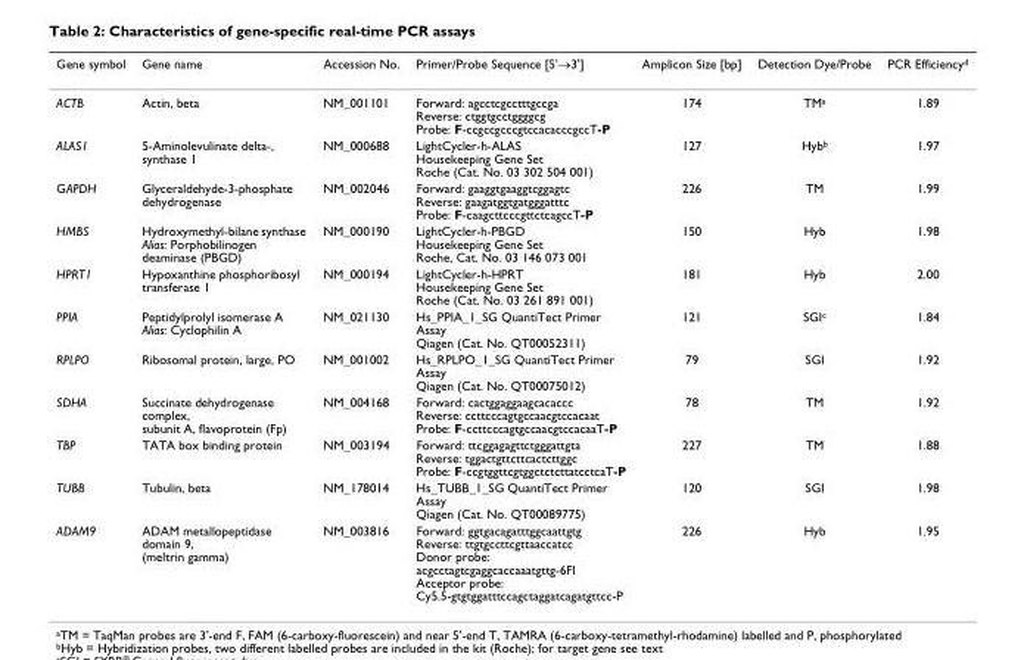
<table><thead><tr><td>Gene symbol</td><td>Gene name</td><td>Accession No.</td><td>Primer/Probe Sequence [5&#x27;→3&#x27;]</td><td>Amplicon Size [bp]</td><td>Detection Dye/Probe</td><td>PCR Efficiency<sup>d</sup></td></tr></thead><tbody><tr><td>ACTB</td><td>Actin, beta</td><td>NM_001101</td><td>Forward: agcctcgcctttgccga Reverse: ctggtgcctggggcg Probe: F-ccgccgcccgtccacacccgccT-P</td><td>174</td><td>TM<sup>a</sup></td><td>1.89</td></tr><tr><td>ALAS1</td><td>5-Aminolevulinate delta-, synthase 1</td><td>NM_000688</td><td>LightCycler-h-ALAS Housekeeping Gene Set Roche (Cat. No. 03 302 504 001)</td><td>127</td><td>Hyb<sup>b</sup></td><td>1.97</td></tr><tr><td>GAPDH</td><td>Glyceraldehyde-3-phosphate dehydrogenase</td><td>NM_002046</td><td>Forward: gaaggtgaaggtcggagtc Reverse: gaagatggtgatgggatttc Probe: F-caagcttcccgttctcagccT-P</td><td>226</td><td>TM</td><td>1.99</td></tr><tr><td>HMBS</td><td>Hydroxymethyl-bilane synthase Alias: Porphobilinogen deaminase (PBGD)</td><td>NM_000190</td><td>LightCycler-h-PBGD Housekeeping Gene Set Roche, Cat. No. 03 146 073 001</td><td>150</td><td>Hyb</td><td>1.98</td></tr><tr><td>HPRT1</td><td>Hypoxanthine phosphoribosyl transferase 1</td><td>NM_000194</td><td>LightCycler-h-HPRT Housekeeping Gene Set Roche (Cat. No. 03 261 891 001)</td><td>181</td><td>Hyb</td><td>2.00</td></tr><tr><td>PPIA</td><td>Peptidylprolyl isomerase A Alias: Cyclophilin A</td><td>NM_021130</td><td>Hs_PPIA_1_SG QuantiTect Primer Assay Qiagen (Cat. No. QT00052311)</td><td>121</td><td>SGI<sup>c</sup></td><td>1.84</td></tr><tr><td>RPLPO</td><td>Ribosomal protein, large, PO</td><td>NM_001002</td><td>Hs_RPLPO_1_SG QuantiTect Primer Assay Qiagen (Cat. No. QT00075012)</td><td>79</td><td>SGI</td><td>1.92</td></tr><tr><td>SDHA</td><td>Succinate dehydrogenase complex, subunit A, flavoprotein (Fp)</td><td>NM_004168</td><td>Forward: cactggaggaagcacaccc Reverse: ccttcccagtgccaacgtccacaat Probe: F-ccttcccagtgccaacgtccacaaT-P</td><td>78</td><td>TM</td><td>1.92</td></tr><tr><td>TBP</td><td>TATA box binding protein</td><td>NM_003194</td><td>Forward: ttcggagagttctgggattgta Reverse: tggactgttcttcactcttggc Probe: F-ccgtggttcgtggctctcttatcctcaT-P</td><td>227</td><td>TM</td><td>1.88</td></tr><tr><td>TUBB</td><td>Tubulin, beta</td><td>NM_178014</td><td>Hs_TUBB_1_SG QuantiTect Primer Assay Qiagen (Cat. No. QT00089775)</td><td>120</td><td>SGI</td><td>1.98</td></tr><tr><td>ADAM9</td><td>ADAM metallopeptidase domain 9, (meltrin gamma)</td><td>NM_003816</td><td>Forward: ggtgacagatttggcaattgtg Reverse: ttgtgccttcgttaaccatcc Donor probe: acgcctagtcgaggcaccaaatgttg-6Fl Acceptor probe: Cy5.5-gtgtggatttccagctaggatcagatgttcc-P</td><td>226</td><td>Hyb</td><td>1.95</td></tr></tbody></table>